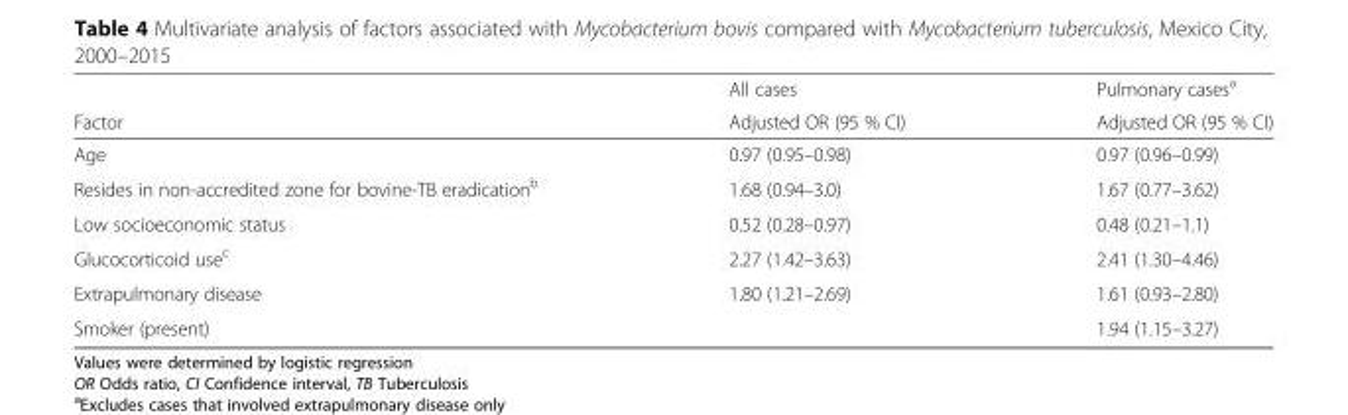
<table><thead><tr><td rowspan="2">Factor</td><td rowspan="2">All cases Adjusted OR (95 % CI)</td><td rowspan="2">Pulmonary cases<sup>a</sup> Adjusted OR (95 % CI)</td></tr><tr></tr></thead><tbody><tr><td>Age</td><td>0.97 (0.95–0.98)</td><td>0.97 (0.96–0.99)</td></tr><tr><td>Resides in non-accredited zone for bovine-TB eradication<sup>b</sup></td><td>1.68 (0.94–3.0)</td><td>1.67 (0.77–3.62)</td></tr><tr><td>Low socioeconomic status</td><td>0.52 (0.28–0.97)</td><td>0.48 (0.21–1.1)</td></tr><tr><td>Glucocorticoid use<sup>c</sup></td><td>2.27 (1.42–3.63)</td><td>2.41 (1.30–4.46)</td></tr><tr><td>Extrapulmonary disease</td><td>1.80 (1.21–2.69)</td><td>1.61 (0.93–2.80)</td></tr><tr><td>Smoker (present)</td><td></td><td>1.94 (1.15–3.27)</td></tr></tbody></table>